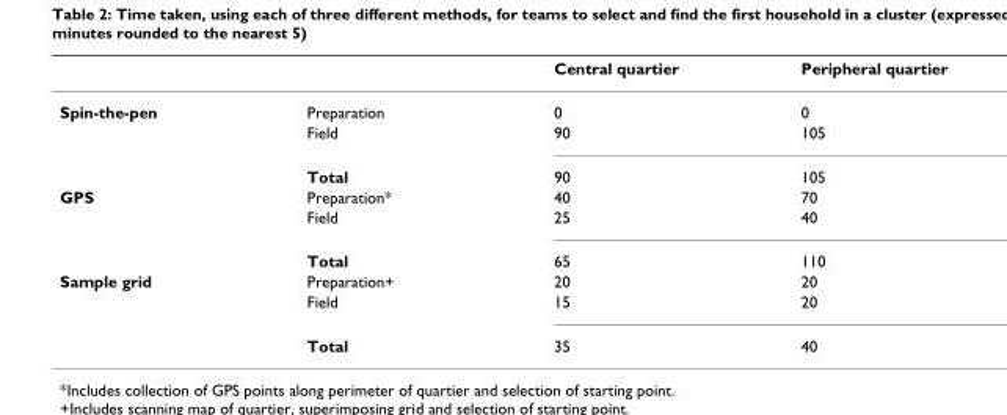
<table><thead><tr><td></td><td></td><td>Central quartier</td><td>Peripheral quartier</td></tr></thead><tbody><tr><td rowspan="3">Spin-the-pen</td><td>Preparation</td><td>0</td><td>0</td></tr><tr><td>Field</td><td>90</td><td>105</td></tr><tr><td>Total</td><td>90</td><td>105</td></tr><tr><td rowspan="3">GPS</td><td>Preparation*</td><td>40</td><td>70</td></tr><tr><td>Field</td><td>25</td><td>40</td></tr><tr><td>Total</td><td>65</td><td>110</td></tr><tr><td rowspan="3">Sample grid</td><td>Preparation+</td><td>20</td><td>20</td></tr><tr><td>Field</td><td>15</td><td>20</td></tr><tr><td>Total</td><td>35</td><td>40</td></tr></tbody></table>